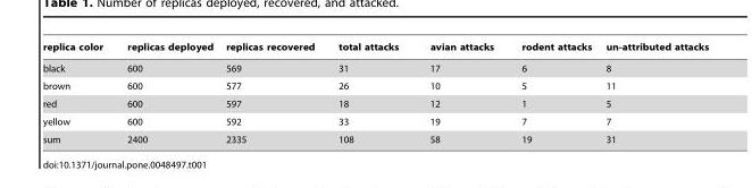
<table><thead><tr><td>replica color</td><td>replicas deployed</td><td>replicas recovered</td><td>total attacks</td><td>avian attacks</td><td>rodent attacks</td><td>un-attributed attacks</td></tr></thead><tbody><tr><td>black</td><td>600</td><td>569</td><td>31</td><td>17</td><td>6</td><td>8</td></tr><tr><td>brown</td><td>600</td><td>577</td><td>26</td><td>10</td><td>5</td><td>11</td></tr><tr><td>red</td><td>600</td><td>597</td><td>18</td><td>12</td><td>1</td><td>5</td></tr><tr><td>yellow</td><td>600</td><td>592</td><td>33</td><td>19</td><td>7</td><td>7</td></tr><tr><td>sum</td><td>2400</td><td>2335</td><td>108</td><td>58</td><td>19</td><td>31</td></tr></tbody></table>